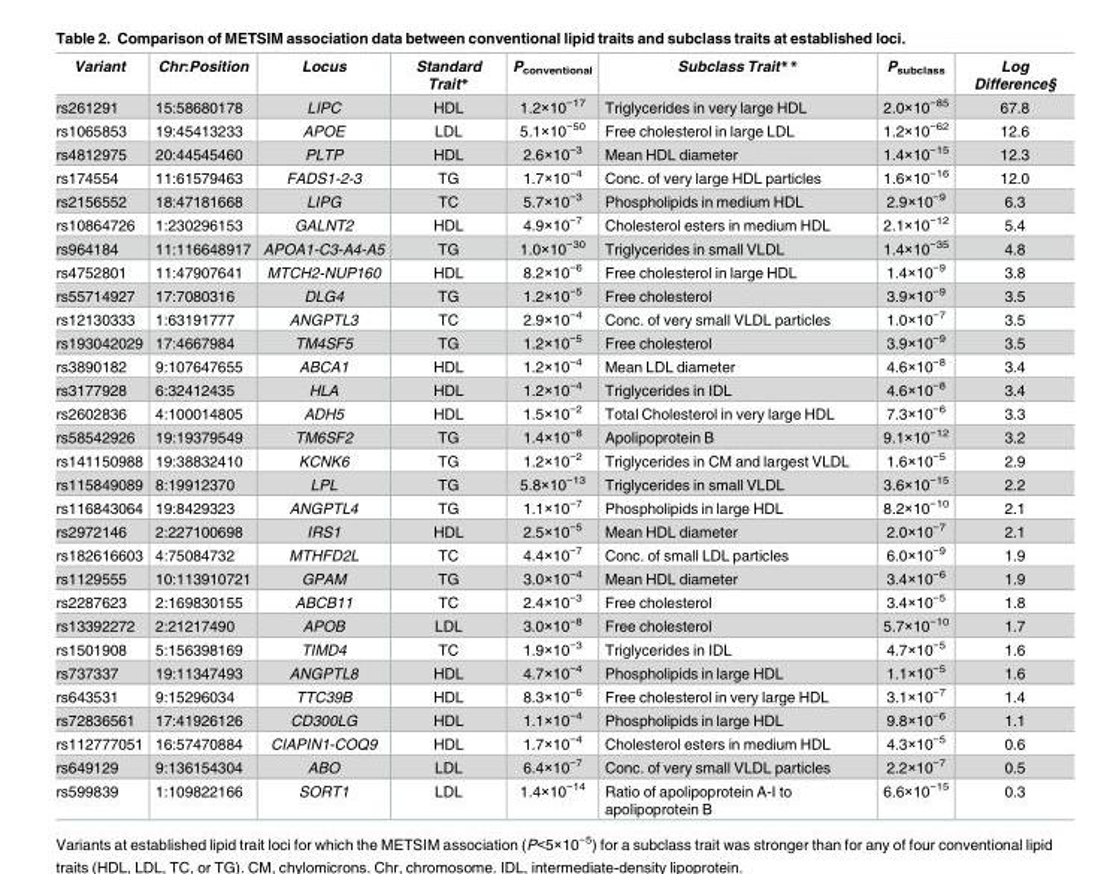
<table><thead><tr><td>Variant</td><td>Chr:Position</td><td>Locus</td><td>Standard Trait*</td><td>P<sub>conventional</sub></td><td>Subclass Trait**</td><td>P<sub>subclass</sub></td><td>Log Difference§</td></tr></thead><tbody><tr><td>rs261291</td><td>15:58680178</td><td>LIPC</td><td>HDL</td><td>1.2×10<sup>−17</sup></td><td>Triglycerides in very large HDL</td><td>2.0×10<sup>−85</sup></td><td>67.8</td></tr><tr><td>rs1065853</td><td>19:45413233</td><td>APOE</td><td>LDL</td><td>5.1×10<sup>−50</sup></td><td>Free cholesterol in large LDL</td><td>1.2×10<sup>−62</sup></td><td>12.6</td></tr><tr><td>rs4812975</td><td>20:44545460</td><td>PLTP</td><td>HDL</td><td>2.6×10<sup>−3</sup></td><td>Mean HDL diameter</td><td>1.4×10<sup>−15</sup></td><td>12.3</td></tr><tr><td>rs174554</td><td>11:61579463</td><td>FADS1-2-3</td><td>TG</td><td>1.7×10<sup>−4</sup></td><td>Conc. of very large HDL particles</td><td>1.6×10<sup>−16</sup></td><td>12.0</td></tr><tr><td>rs2156552</td><td>18:47181668</td><td>LIPG</td><td>TC</td><td>5.7×10<sup>−3</sup></td><td>Phospholipids in medium HDL</td><td>2.9×10<sup>−9</sup></td><td>6.3</td></tr><tr><td>rs10864726</td><td>1:230296153</td><td>GALNT2</td><td>HDL</td><td>4.9×10<sup>−7</sup></td><td>Cholesterol esters in medium HDL</td><td>2.1×10<sup>−12</sup></td><td>5.4</td></tr><tr><td>rs964184</td><td>11:116648917</td><td>APOA1-C3-A4-A5</td><td>TG</td><td>1.0×10<sup>−30</sup></td><td>Triglycerides in small VLDL</td><td>1.4×10<sup>−35</sup></td><td>4.8</td></tr><tr><td>rs4752801</td><td>11:47907641</td><td>MTCH2-NUP160</td><td>HDL</td><td>8.2×10<sup>−6</sup></td><td>Free cholesterol in large HDL</td><td>1.4×10<sup>−9</sup></td><td>3.8</td></tr><tr><td>rs55714927</td><td>17:7080316</td><td>DLG4</td><td>TG</td><td>1.2×10<sup>−5</sup></td><td>Free cholesterol</td><td>3.9×10<sup>−9</sup></td><td>3.5</td></tr><tr><td>rs12130333</td><td>1:63191777</td><td>ANGPTL3</td><td>TC</td><td>2.9×10<sup>−4</sup></td><td>Conc. of very small VLDL particles</td><td>1.0×10<sup>−7</sup></td><td>3.5</td></tr><tr><td>rs193042029</td><td>17:4667984</td><td>TM4SF5</td><td>TG</td><td>1.2×10<sup>−5</sup></td><td>Free cholesterol</td><td>3.9×10<sup>−9</sup></td><td>3.5</td></tr><tr><td>rs3890182</td><td>9:107647655</td><td>ABCA1</td><td>HDL</td><td>1.2×10<sup>−4</sup></td><td>Mean LDL diameter</td><td>4.6×10<sup>−8</sup></td><td>3.4</td></tr><tr><td>rs3177928</td><td>6:32412435</td><td>HLA</td><td>HDL</td><td>1.2×10<sup>−4</sup></td><td>Triglycerides in IDL</td><td>4.6×10<sup>−8</sup></td><td>3.4</td></tr><tr><td>rs2602836</td><td>4:100014805</td><td>ADH5</td><td>HDL</td><td>1.5×10<sup>−2</sup></td><td>Total Cholesterol in very large HDL</td><td>7.3×10<sup>−6</sup></td><td>3.3</td></tr><tr><td>rs58542926</td><td>19:19379549</td><td>TM6SF2</td><td>TG</td><td>1.4×10<sup>−8</sup></td><td>Apolipoprotein B</td><td>9.1×10<sup>−12</sup></td><td>3.2</td></tr><tr><td>rs141150988</td><td>19:38832410</td><td>KCNK6</td><td>TG</td><td>1.2×10<sup>−2</sup></td><td>Triglycerides in CM and largest VLDL</td><td>1.6×10<sup>−5</sup></td><td>2.9</td></tr><tr><td>rs115849089</td><td>8:19912370</td><td>LPL</td><td>TG</td><td>5.8×10<sup>−13</sup></td><td>Triglycerides in small VLDL</td><td>3.6×10<sup>−15</sup></td><td>2.2</td></tr><tr><td>rs116843064</td><td>19:8429323</td><td>ANGPTL4</td><td>TG</td><td>1.1×10<sup>−7</sup></td><td>Phospholipids in large HDL</td><td>8.2×10<sup>−10</sup></td><td>2.1</td></tr><tr><td>rs2972146</td><td>2:227100698</td><td>IRS1</td><td>HDL</td><td>2.5×10<sup>−5</sup></td><td>Mean HDL diameter</td><td>2.0×10<sup>−7</sup></td><td>2.1</td></tr><tr><td>rs182616603</td><td>4:75084732</td><td>MTHFD2L</td><td>TC</td><td>4.4×10<sup>−7</sup></td><td>Conc. of small LDL particles</td><td>6.0×10<sup>−9</sup></td><td>1.9</td></tr><tr><td>rs1129555</td><td>10:113910721</td><td>GPAM</td><td>TG</td><td>3.0×10<sup>−4</sup></td><td>Mean HDL diameter</td><td>3.4×10<sup>−6</sup></td><td>1.9</td></tr><tr><td>rs2287623</td><td>2:169830155</td><td>ABCB11</td><td>TC</td><td>2.4×10<sup>−3</sup></td><td>Free cholesterol</td><td>3.4×10<sup>−5</sup></td><td>1.8</td></tr><tr><td>rs13392272</td><td>2:21217490</td><td>APOB</td><td>LDL</td><td>3.0×10<sup>−8</sup></td><td>Free cholesterol</td><td>5.7×10<sup>−10</sup></td><td>1.7</td></tr><tr><td>rs1501908</td><td>5:156398169</td><td>TIMD4</td><td>TC</td><td>1.9×10<sup>−3</sup></td><td>Triglycerides in IDL</td><td>4.7×10<sup>−5</sup></td><td>1.6</td></tr><tr><td>rs737337</td><td>19:11347493</td><td>ANGPTL8</td><td>HDL</td><td>4.7×10<sup>−4</sup></td><td>Phospholipids in large HDL</td><td>1.1×10<sup>−5</sup></td><td>1.6</td></tr><tr><td>rs643531</td><td>9:15296034</td><td>TTC39B</td><td>HDL</td><td>8.3×10<sup>−6</sup></td><td>Free cholesterol in very large HDL</td><td>3.1×10<sup>−7</sup></td><td>1.4</td></tr><tr><td>rs72836561</td><td>17:41926126</td><td>CD300LG</td><td>HDL</td><td>1.1×10<sup>−4</sup></td><td>Phospholipids in large HDL</td><td>9.8×10<sup>−6</sup></td><td>1.1</td></tr><tr><td>rs112777051</td><td>16:57470884</td><td>CIAPIN1-COQ9</td><td>HDL</td><td>1.7×10<sup>−4</sup></td><td>Cholesterol esters in medium HDL</td><td>4.3×10<sup>−5</sup></td><td>0.6</td></tr><tr><td>rs649129</td><td>9:136154304</td><td>ABO</td><td>LDL</td><td>6.4×10<sup>−7</sup></td><td>Conc. of very small VLDL particles</td><td>2.2×10<sup>−7</sup></td><td>0.5</td></tr><tr><td>rs599839</td><td>1:109822166</td><td>SORT1</td><td>LDL</td><td>1.4×10<sup>−14</sup></td><td>Ratio of apolipoprotein A-I to apolipoprotein B</td><td>6.6×10<sup>−15</sup></td><td>0.3</td></tr></tbody></table>